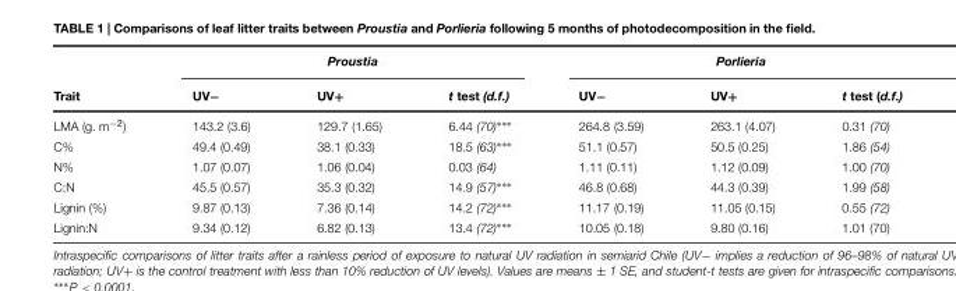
<table><thead><tr><td rowspan="2">Trait</td><td colspan="3">Proustia</td><td colspan="3">Porlieria</td></tr><tr><td>UV−</td><td>UV+</td><td>t test (d.f.)</td><td>UV−</td><td>UV+</td><td>t test (d.f.)</td></tr></thead><tbody><tr><td>LMA (g. m<sup>−2</sup>)</td><td>143.2 (3.6)</td><td>129.7 (1.65)</td><td>6.44 (70)∗∗∗</td><td>264.8 (3.59)</td><td>263.1 (4.07)</td><td>0.31 (70)</td></tr><tr><td>C%</td><td>49.4 (0.49)</td><td>38.1 (0.33)</td><td>18.5 (63)∗∗∗</td><td>51.1 (0.57)</td><td>50.5 (0.25)</td><td>1.86 (54)</td></tr><tr><td>N%</td><td>1.07 (0.07)</td><td>1.06 (0.04)</td><td>0.03 (64)</td><td>1.11 (0.11)</td><td>1.12 (0.09)</td><td>1.00 (70)</td></tr><tr><td>C:N</td><td>45.5 (0.57)</td><td>35.3 (0.32)</td><td>14.9 (57)∗∗∗</td><td>46.8 (0.68)</td><td>44.3 (0.39)</td><td>1.99 (58)</td></tr><tr><td>Lignin (%)</td><td>9.87 (0.13)</td><td>7.36 (0.14)</td><td>14.2 (72)∗∗∗</td><td>11.17 (0.19)</td><td>11.05 (0.15)</td><td>0.55 (72)</td></tr><tr><td>Lignin:N</td><td>9.34 (0.12)</td><td>6.82 (0.13)</td><td>13.4 (72)∗∗∗</td><td>10.05 (0.18)</td><td>9.80 (0.16)</td><td>1.01 (70)</td></tr></tbody></table>